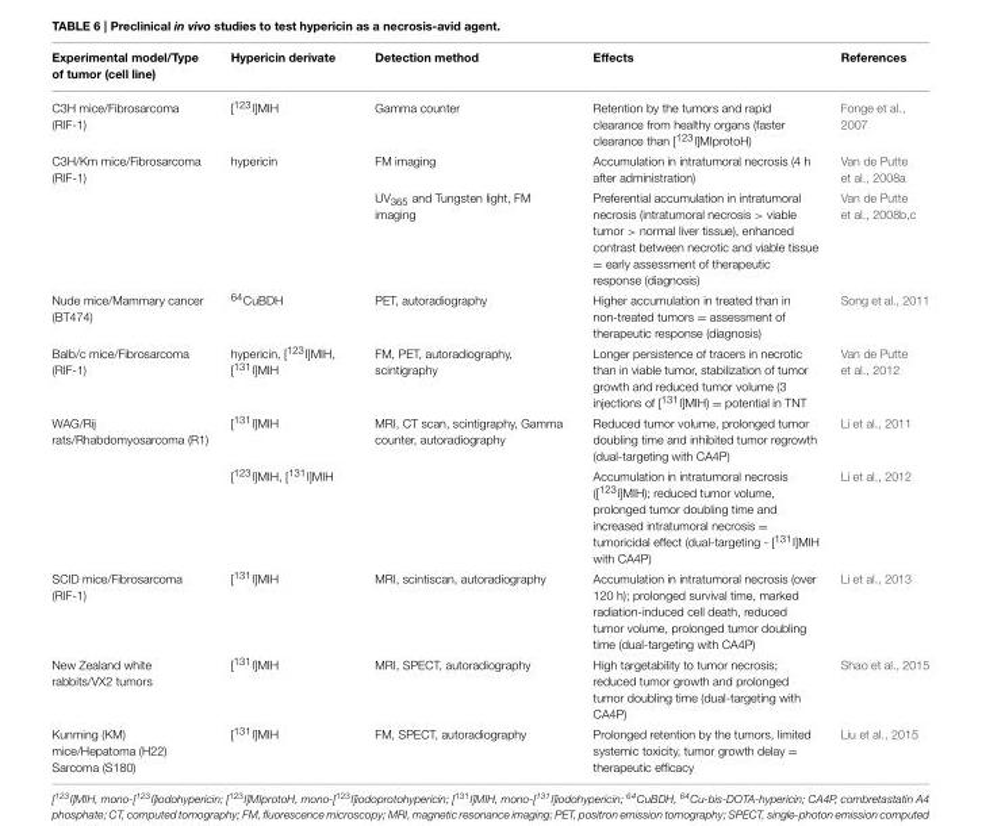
<table><thead><tr><td>Experimental model/Type of tumor (cell line)</td><td>Hypericin derivate</td><td>Detection method</td><td>Effects</td><td>References</td></tr></thead><tbody><tr><td>C3H mice/Fibrosarcoma (RIF-1)</td><td>[<sup>123</sup>I]MIH</td><td>Gamma counter</td><td>Retention by the tumors and rapid clearance from healthy organs (faster clearance than [<sup>123</sup>I]MIprotoH)</td><td>Fonge et al., 2007</td></tr><tr><td rowspan="2">C3H/Km mice/Fibrosarcoma (RIF-1)</td><td>hypericin</td><td>FM imaging</td><td>Accumulation in intratumoral necrosis (4 h after administration)</td><td>Van de Putte et al., 2008a</td></tr><tr><td></td><td>UV<sub>365</sub> and Tungsten light, FM imaging</td><td>Preferential accumulation in intratumoral necrosis (intratumoral necrosis &gt; viable tumor &gt; normal liver tissue), enhanced contrast between necrotic and viable tissue = early assessment of therapeutic response (diagnosis)</td><td>Van de Putte et al., 2008b,c</td></tr><tr><td>Nude mice/Mammary cancer (BT474)</td><td><sup>64</sup>CuBDH</td><td>PET, autoradiography</td><td>Higher accumulation in treated than in non-treated tumors = assessment of therapeutic response (diagnosis)</td><td>Song et al., 2011</td></tr><tr><td>Balb/c mice/Fibrosarcoma (RIF-1)</td><td>hypericin, [<sup>123</sup>I]MIH, [<sup>131</sup>I]MIH</td><td>FM, PET, autoradiography, scintigraphy</td><td>Longer persistence of tracers in necrotic than in viable tumor, stabilization of tumor growth and reduced tumor volume (3 injections of [<sup>131</sup>I]MIH) = potential in TNT</td><td>Van de Putte et al., 2012</td></tr><tr><td rowspan="2">WAG/Rij rats/Rhabdomyosarcoma (R1)</td><td>[<sup>131</sup>I]MIH</td><td>MRI, CT scan, scintigraphy, Gamma counter, autoradiography</td><td>Reduced tumor volume, prolonged tumor doubling time and inhibited tumor regrowth (dual-targeting with CA4P)</td><td>Li et al., 2011</td></tr><tr><td>[<sup>123</sup>I]MIH, [<sup>131</sup>I]MIH</td><td></td><td>Accumulation in intratumoral necrosis ([<sup>123</sup>I]MIH); reduced tumor volume, prolonged tumor doubling time and increased intratumoral necrosis = tumoricidal effect (dual-targeting - [<sup>131</sup>I]MIH with CA4P)</td><td>Li et al., 2012</td></tr><tr><td>SCID mice/Fibrosarcoma (RIF-1)</td><td>[<sup>131</sup>I]MIH</td><td>MRI, scintiscan, autoradiography</td><td>Accumulation in intratumoral necrosis (over 120 h); prolonged survival time, marked radiation-induced cell death, reduced tumor volume, prolonged tumor doubling time (dual-targeting with CA4P)</td><td>Li et al., 2013</td></tr><tr><td>New Zealand white rabbits/VX2 tumors</td><td>[<sup>131</sup>I]MIH</td><td>MRI, SPECT, autoradiography</td><td>High targetability to tumor necrosis; reduced tumor growth and prolonged tumor doubling time (dual-targeting with CA4P)</td><td>Shao et al., 2015</td></tr><tr><td>Kunming (KM) mice/Hepatoma (H22) Sarcoma (S180)</td><td>[<sup>131</sup>I]MIH</td><td>FM, SPECT, autoradiography</td><td>Prolonged retention by the tumors, limited systemic toxicity, tumor growth delay = therapeutic efficacy</td><td>Liu et al., 2015</td></tr></tbody></table>